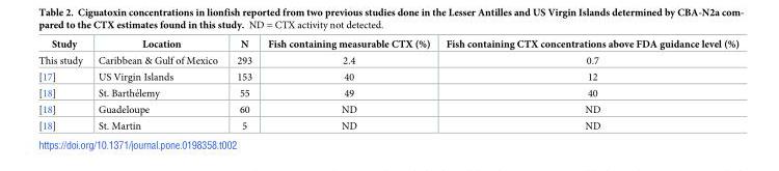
<table><thead><tr><td>Study</td><td>Location</td><td>N</td><td>Fish containing measurable CTX (%)</td><td>Fish containing CTX concentrations above FDA guidance level (%)</td></tr></thead><tbody><tr><td>This study</td><td>Caribbean &amp; Gulf of Mexico</td><td>293</td><td>2.4</td><td>0.7</td></tr><tr><td>[17]</td><td>US Virgin Islands</td><td>153</td><td>40</td><td>12</td></tr><tr><td>[18]</td><td>St. Barthe´lemy</td><td>55</td><td>49</td><td>40</td></tr><tr><td>[18]</td><td>Guadeloupe</td><td>60</td><td>ND</td><td>ND</td></tr><tr><td>[18]</td><td>St. Martin</td><td>5</td><td>ND</td><td>ND</td></tr></tbody></table>